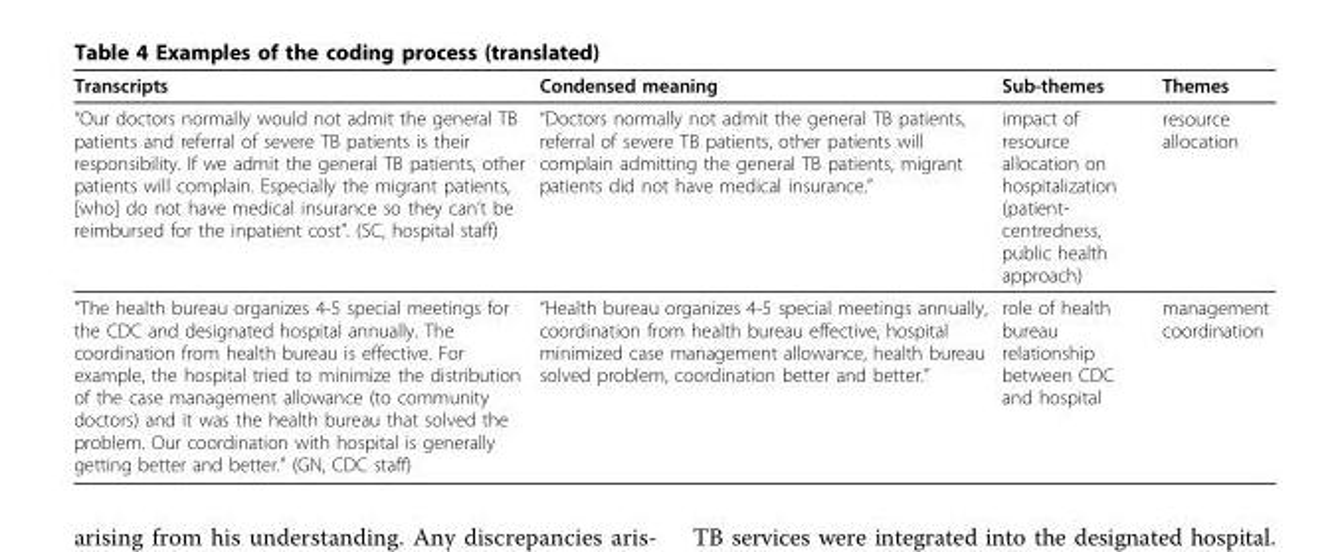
<table><thead><tr><td>Transcripts</td><td>Condensed meaning</td><td>Sub-themes</td><td>Themes</td></tr></thead><tbody><tr><td>“Our doctors normally would not admit the general TB patients and referral of severe TB patients is their responsibility. If we admit the general TB patients, other patients will complain. Especially the migrant patients, [who] do not have medical insurance so they can’t be reimbursed for the inpatient cost”. (SC, hospital staff)</td><td>“Doctors normally not admit the general TB patients, referral of severe TB patients, other patients will complain admitting the general TB patients, migrant patients did not have medical insurance.”</td><td>impact of resource allocation on hospitalization (patient- centredness, public health approach)</td><td>resource allocation</td></tr><tr><td>“The health bureau organizes 4-5 special meetings for the CDC and designated hospital annually. The coordination from health bureau is effective. For example, the hospital tried to minimize the distribution of the case management allowance (to community doctors) and it was the health bureau that solved the problem. Our coordination with hospital is generally getting better and better.” (GN, CDC staff)</td><td>“Health bureau organizes 4-5 special meetings annually, coordination from health bureau effective, hospital minimized case management allowance, health bureau solved problem, coordination better and better.”</td><td>role of health bureau relationship between CDC and hospital</td><td>management coordination</td></tr></tbody></table>